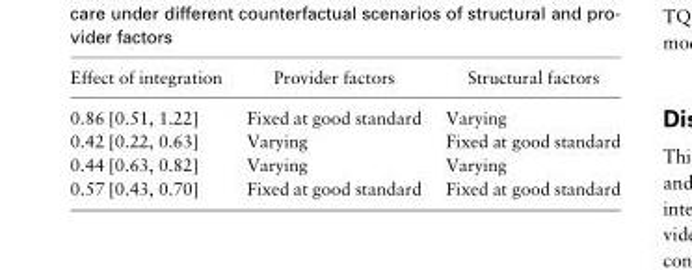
<table><thead><tr><td>Effect of integration</td><td>Provider factors</td><td>Structural factors</td></tr></thead><tbody><tr><td>0.86 [0.51, 1.22]</td><td>Fixed at good standard</td><td>Varying</td></tr><tr><td>0.42 [0.22, 0.63]</td><td>Varying</td><td>Fixed at good standard</td></tr><tr><td>0.44 [0.63, 0.82]</td><td>Varying</td><td>Varying</td></tr><tr><td>0.57 [0.43, 0.70]</td><td>Fixed at good standard</td><td>Fixed at good standard</td></tr></tbody></table>